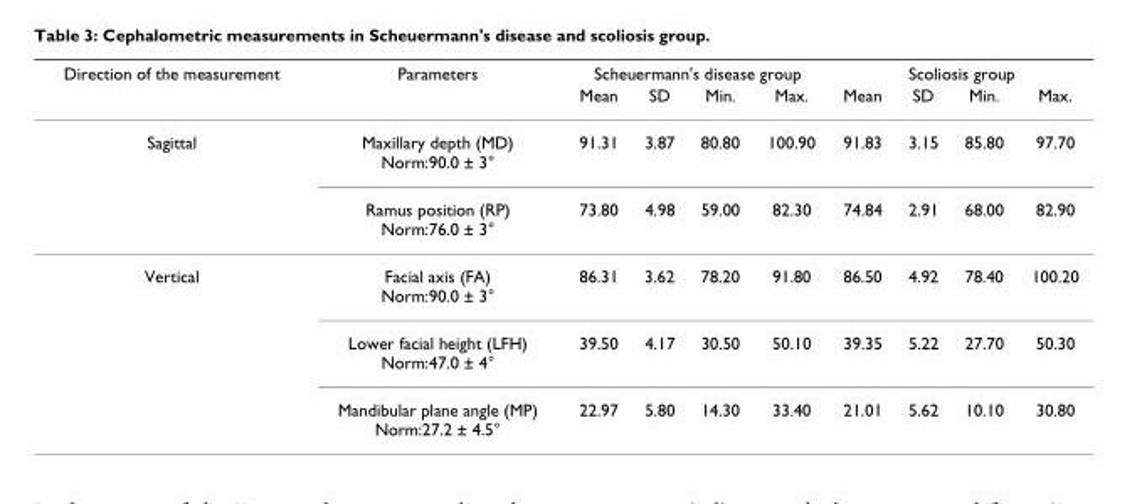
<table><thead><tr><td rowspan="2">Direction of the measurement</td><td rowspan="2">Parameters</td><td colspan="4">Scheuermann&#x27;s disease group</td><td colspan="4">Scoliosis group</td></tr><tr><td>Mean</td><td>SD</td><td>Min.</td><td>Max.</td><td>Mean</td><td>SD</td><td>Min.</td><td>Max.</td></tr></thead><tbody><tr><td rowspan="2">Sagittal</td><td>Maxillary depth (MD) Norm:90.0 ± 3°</td><td>91.31</td><td>3.87</td><td>80.80</td><td>100.90</td><td>91.83</td><td>3.15</td><td>85.80</td><td>97.70</td></tr><tr><td>Ramus position (RP) Norm:76.0 ± 3°</td><td>73.80</td><td>4.98</td><td>59.00</td><td>82.30</td><td>74.84</td><td>2.91</td><td>68.00</td><td>82.90</td></tr><tr><td rowspan="3">Vertical</td><td>Facial axis (FA) Norm:90.0 ± 3°</td><td>86.31</td><td>3.62</td><td>78.20</td><td>91.80</td><td>86.50</td><td>4.92</td><td>78.40</td><td>100.20</td></tr><tr><td>Lower facial height (LFH) Norm:47.0 ± 4°</td><td>39.50</td><td>4.17</td><td>30.50</td><td>50.10</td><td>39.35</td><td>5.22</td><td>27.70</td><td>50.30</td></tr><tr><td>Mandibular plane angle (MP) Norm:27.2 ± 4.5°</td><td>22.97</td><td>5.80</td><td>14.30</td><td>33.40</td><td>21.01</td><td>5.62</td><td>10.10</td><td>30.80</td></tr></tbody></table>